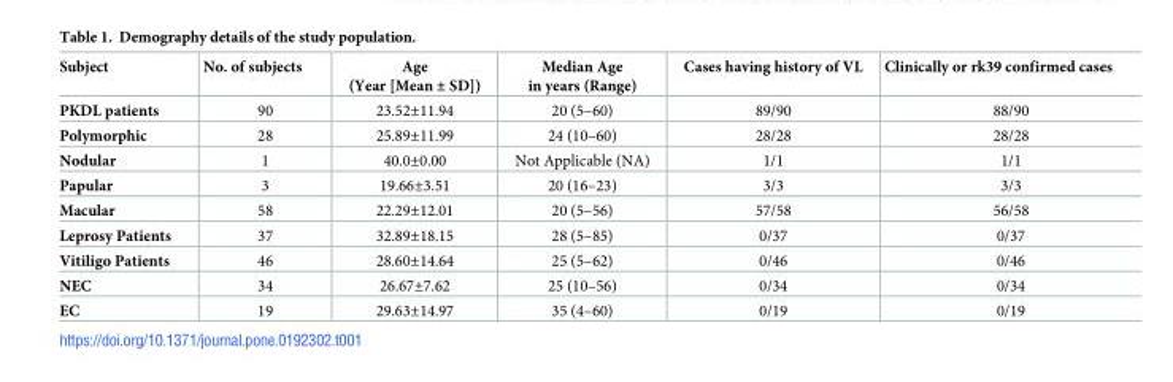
<table><thead><tr><td>Subject</td><td>No. of subjects</td><td>Age (Year [Mean ± SD])</td><td>Median Age in years (Range)</td><td>Cases having history of VL</td><td>Clinically or rk39 confirmed cases</td></tr></thead><tbody><tr><td>PKDL patients</td><td>90</td><td>23.52±11.94</td><td>20 (5–60)</td><td>89/90</td><td>88/90</td></tr><tr><td>Polymorphic</td><td>28</td><td>25.89±11.99</td><td>24 (10–60)</td><td>28/28</td><td>28/28</td></tr><tr><td>Nodular</td><td>1</td><td>40.0±0.00</td><td>Not Applicable (NA)</td><td>1/1</td><td>1/1</td></tr><tr><td>Papular</td><td>3</td><td>19.66±3.51</td><td>20 (16–23)</td><td>3/3</td><td>3/3</td></tr><tr><td>Macular</td><td>58</td><td>22.29±12.01</td><td>20 (5–56)</td><td>57/58</td><td>56/58</td></tr><tr><td>Leprosy Patients</td><td>37</td><td>32.89±18.15</td><td>28 (5–85)</td><td>0/37</td><td>0/37</td></tr><tr><td>Vitiligo Patients</td><td>46</td><td>28.60±14.64</td><td>25 (5–62)</td><td>0/46</td><td>0/46</td></tr><tr><td>NEC</td><td>34</td><td>26.67±7.62</td><td>25 (10–56)</td><td>0/34</td><td>0/34</td></tr><tr><td>EC</td><td>19</td><td>29.63±14.97</td><td>35 (4–60)</td><td>0/19</td><td>0/19</td></tr></tbody></table>